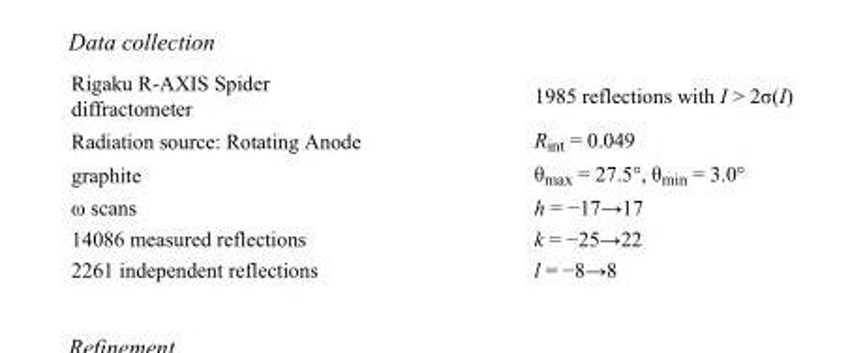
<table><tbody><tr><td>Rigaku R-AXIS Spider diffractometer</td><td>1985 reflections with I &gt; 2σ(I)</td></tr><tr><td>Radiation source: Rotating Anode</td><td>R<sub>int</sub> = 0.049</td></tr><tr><td>graphite</td><td>θ<sub>max</sub> = 27.5°, θ<sub>min</sub> = 3.0°</td></tr><tr><td>ω scans</td><td>h = −17→17</td></tr><tr><td>14086 measured reflections</td><td>k = −25→22</td></tr><tr><td>2261 independent reflections</td><td>l = −8→8</td></tr></tbody></table>